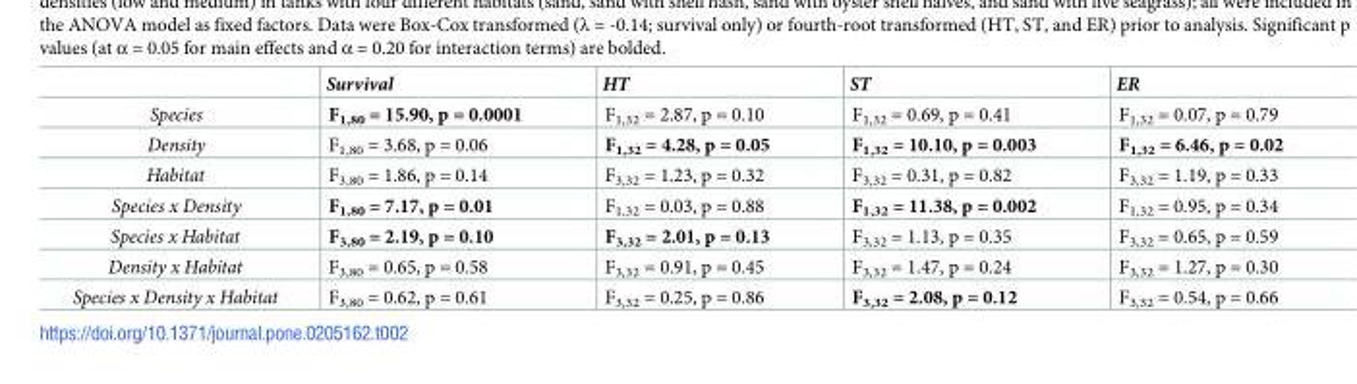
<table><thead><tr><td></td><td>Survival</td><td>HT</td><td>ST</td><td>ER</td></tr></thead><tbody><tr><td>Species</td><td>F<sub>1,80</sub> = 15.90, p = 0.0001</td><td>F<sub>1,32</sub> = 2.87, p = 0.10</td><td>F<sub>1,32</sub> = 0.69, p = 0.41</td><td>F<sub>1,32</sub> = 0.07, p = 0.79</td></tr><tr><td>Density</td><td>F<sub>1,80</sub> = 3.68, p = 0.06</td><td>F<sub>1,32</sub> = 4.28, p = 0.05</td><td>F<sub>1,32</sub> = 10.10, p = 0.003</td><td>F<sub>1,32</sub> = 6.46, p = 0.02</td></tr><tr><td>Habitat</td><td>F<sub>3,80</sub> = 1.86, p = 0.14</td><td>F<sub>3,32</sub> = 1.23, p = 0.32</td><td>F<sub>3,32</sub> = 0.31, p = 0.82</td><td>F<sub>3,32</sub> = 1.19, p = 0.33</td></tr><tr><td>Species x Density</td><td>F<sub>1,80</sub> = 7.17, p = 0.01</td><td>F<sub>1,32</sub> = 0.03, p = 0.88</td><td>F<sub>1,32</sub> = 11.38, p = 0.002</td><td>F<sub>1,32</sub> = 0.95, p = 0.34</td></tr><tr><td>Species x Habitat</td><td>F<sub>3,80</sub> = 2.19, p = 0.10</td><td>F<sub>3,32</sub> = 2.01, p = 0.13</td><td>F<sub>3,32</sub> = 1.13, p = 0.35</td><td>F<sub>3,32</sub> = 0.65, p = 0.59</td></tr><tr><td>Density x Habitat</td><td>F<sub>3,80</sub> = 0.65, p = 0.58</td><td>F<sub>3,32</sub> = 0.91, p = 0.45</td><td>F<sub>3,32</sub> = 1.47, p = 0.24</td><td>F<sub>3,32</sub> = 1.27, p = 0.30</td></tr><tr><td>Species x Density x Habitat</td><td>F<sub>3,80</sub> = 0.62, p = 0.61</td><td>F<sub>3,32</sub> = 0.25, p = 0.86</td><td>F<sub>3,32</sub> = 2.08, p = 0.12</td><td>F<sub>3,32</sub> = 0.54, p = 0.66</td></tr></tbody></table>